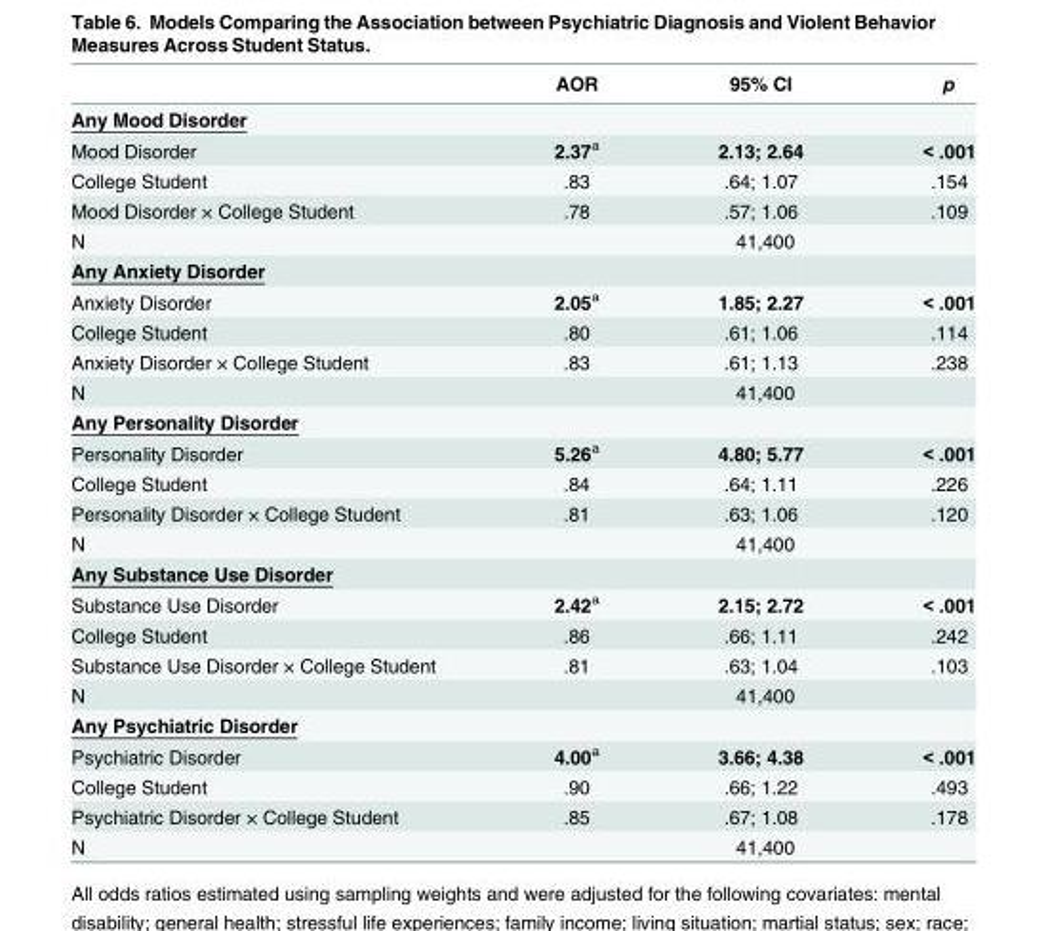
<table><thead><tr><td></td><td>AOR</td><td>95% CI</td><td>p</td></tr></thead><tbody><tr><td colspan="4">Any Mood Disorder</td></tr><tr><td>Mood Disorder</td><td>2.37<sup>a</sup></td><td>2.13; 2.64</td><td>&lt; .001</td></tr><tr><td>College Student</td><td>.83</td><td>.64; 1.07</td><td>.154</td></tr><tr><td>Mood Disorder × College Student</td><td>.78</td><td>.57; 1.06</td><td>.109</td></tr><tr><td>N</td><td colspan="3">41,400</td></tr><tr><td colspan="4">Any Anxiety Disorder</td></tr><tr><td>Anxiety Disorder</td><td>2.05<sup>a</sup></td><td>1.85; 2.27</td><td>&lt; .001</td></tr><tr><td>College Student</td><td>.80</td><td>.61; 1.06</td><td>.114</td></tr><tr><td>Anxiety Disorder × College Student</td><td>.83</td><td>.61; 1.13</td><td>.238</td></tr><tr><td>N</td><td colspan="3">41,400</td></tr><tr><td colspan="4">Any Personality Disorder</td></tr><tr><td>Personality Disorder</td><td>5.26<sup>a</sup></td><td>4.80; 5.77</td><td>&lt; .001</td></tr><tr><td>College Student</td><td>.84</td><td>.64; 1.11</td><td>.226</td></tr><tr><td>Personality Disorder × College Student</td><td>.81</td><td>.63; 1.06</td><td>.120</td></tr><tr><td>N</td><td colspan="3">41,400</td></tr><tr><td colspan="4">Any Substance Use Disorder</td></tr><tr><td>Substance Use Disorder</td><td>2.42<sup>a</sup></td><td>2.15; 2.72</td><td>&lt; .001</td></tr><tr><td>College Student</td><td>.86</td><td>.66; 1.11</td><td>.242</td></tr><tr><td>Substance Use Disorder × College Student</td><td>.81</td><td>.63; 1.04</td><td>.103</td></tr><tr><td>N</td><td colspan="3">41,400</td></tr><tr><td colspan="4">Any Psychiatric Disorder</td></tr><tr><td>Psychiatric Disorder</td><td>4.00<sup>a</sup></td><td>3.66; 4.38</td><td>&lt; .001</td></tr><tr><td>College Student</td><td>.90</td><td>.66; 1.22</td><td>.493</td></tr><tr><td>Psychiatric Disorder × College Student</td><td>.85</td><td>.67; 1.08</td><td>.178</td></tr><tr><td>N</td><td colspan="3">41,400</td></tr></tbody></table>